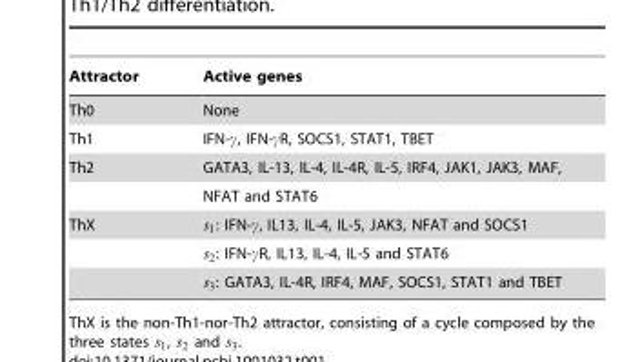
<table><thead><tr><td>Attractor</td><td>Active genes</td></tr></thead><tbody><tr><td>Th0</td><td>None</td></tr><tr><td>Th1</td><td>IFN-c, IFN-cR, SOCS1, STAT1, TBET</td></tr><tr><td rowspan="2">Th2</td><td>GATA3, IL-13, IL-4, IL-4R, IL-5, IRF4, JAK1, JAK3, MAF,</td></tr><tr><td>NFAT and STAT6</td></tr><tr><td rowspan="3">ThX</td><td>s1: IFN-c, IL13, IL-4, IL-5, JAK3, NFAT and SOCS1</td></tr><tr><td>s2: IFN-cR, IL13, IL-4, IL-5 and STAT6</td></tr><tr><td>s3: GATA3, IL-4R, IRF4, MAF, SOCS1, STAT1 and TBET</td></tr></tbody></table>